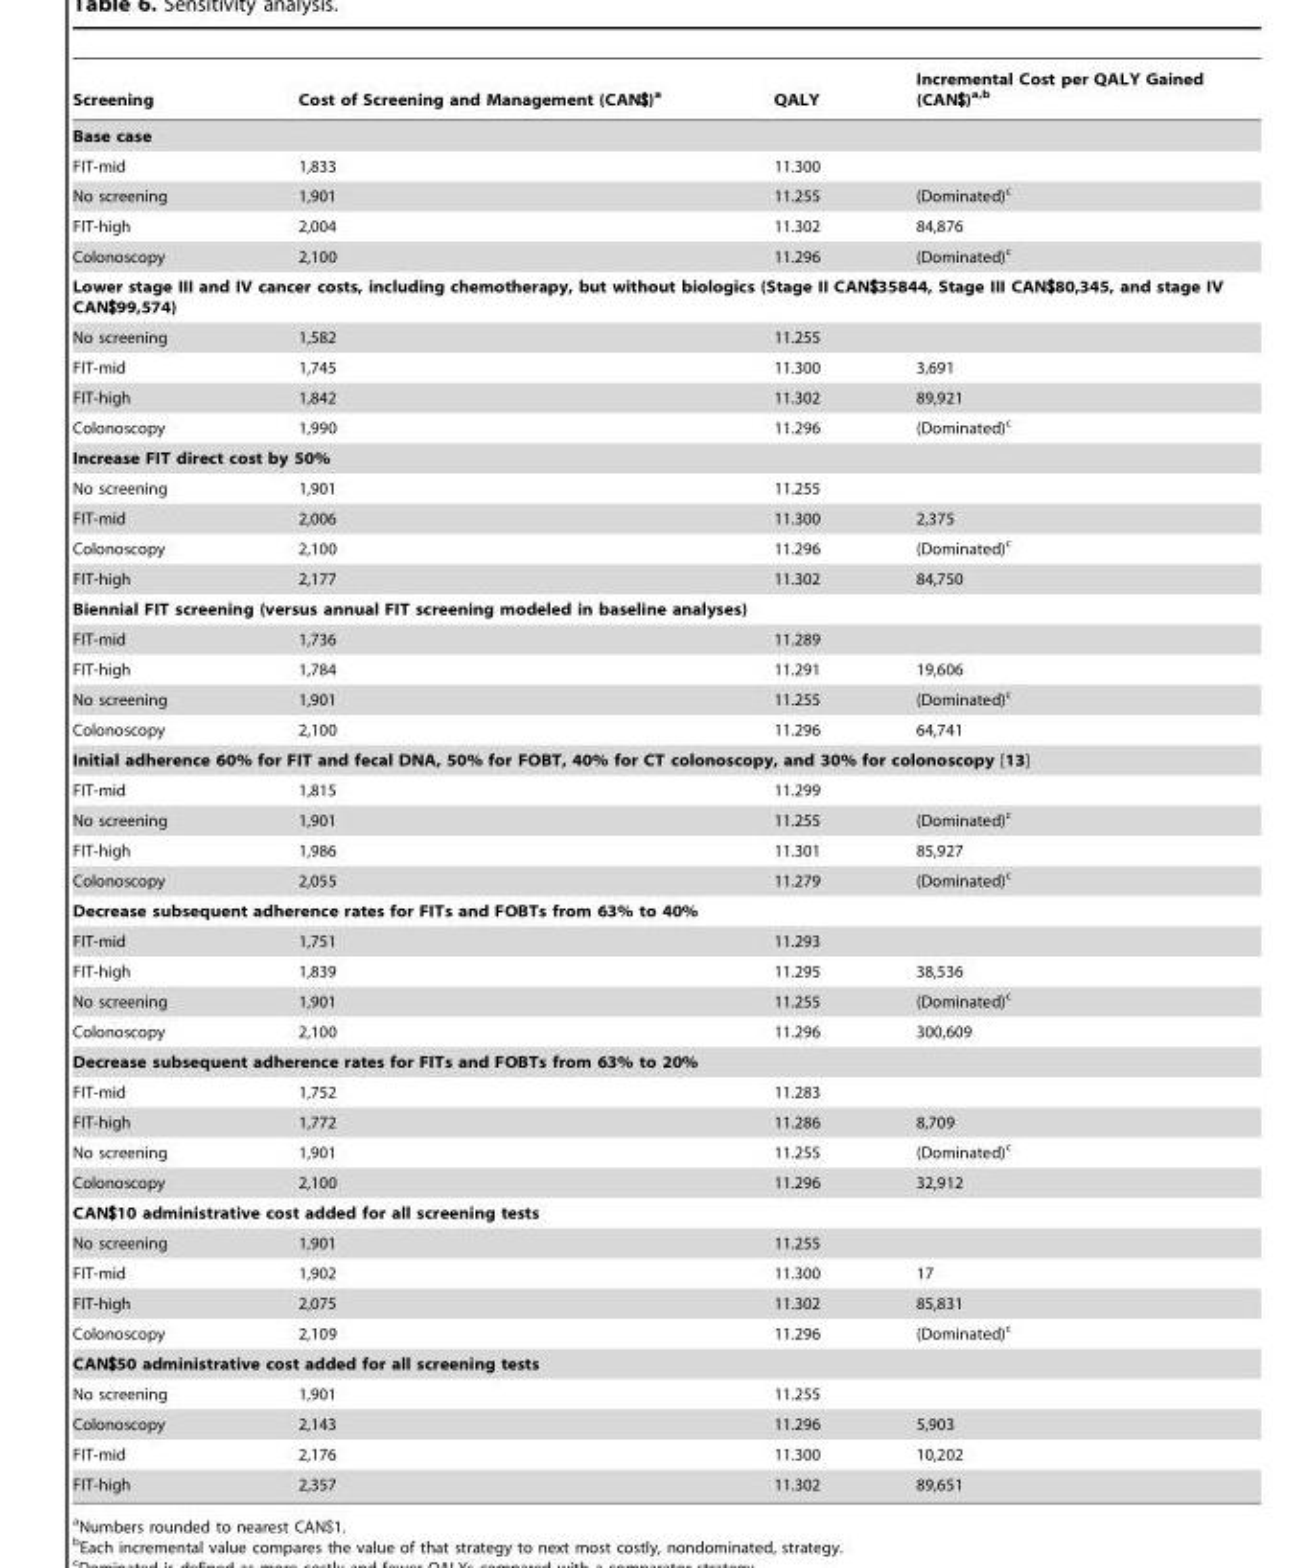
<table><thead><tr><td>Screening</td><td>Cost of Screening and Management (CAN$)<sup>a</sup></td><td>QALY</td><td>Incremental Cost per QALY Gained (CAN$)<sup>a,</sup>b</td></tr></thead><tbody><tr><td colspan="4">Base case</td></tr><tr><td>FIT-mid</td><td>1,833</td><td>11.300</td><td></td></tr><tr><td>No screening</td><td>1,901</td><td>11.255</td><td>(Dominated)<sup>c</sup></td></tr><tr><td>FIT-high</td><td>2,004</td><td>11.302</td><td>84,876</td></tr><tr><td>Colonoscopy</td><td>2,100</td><td>11.296</td><td>(Dominated)<sup>c</sup></td></tr><tr><td colspan="4">Lower stage III and IV cancer costs, including chemotherapy, but without biologics (Stage II CAN$35844, Stage III CAN$80,345, and stage IV CAN$99,574)</td></tr><tr><td>No screening</td><td>1,582</td><td>11.255</td><td></td></tr><tr><td>FIT-mid</td><td>1,745</td><td>11.300</td><td>3,691</td></tr><tr><td>FIT-high</td><td>1,842</td><td>11.302</td><td>89,921</td></tr><tr><td>Colonoscopy</td><td>1,990</td><td>11.296</td><td>(Dominated)<sup>c</sup></td></tr><tr><td colspan="4">Increase FIT direct cost by 50%</td></tr><tr><td>No screening</td><td>1,901</td><td>11.255</td><td></td></tr><tr><td>FIT-mid</td><td>2,006</td><td>11.300</td><td>2,375</td></tr><tr><td>Colonoscopy</td><td>2,100</td><td>11.296</td><td>(Dominated)<sup>c</sup></td></tr><tr><td>FIT-high</td><td>2,177</td><td>11.302</td><td>84,750</td></tr><tr><td colspan="4">Biennial FIT screening (versus annual FIT screening modeled in baseline analyses)</td></tr><tr><td>FIT-mid</td><td>1,736</td><td>11.289</td><td></td></tr><tr><td>FIT-high</td><td>1,784</td><td>11.291</td><td>19,606</td></tr><tr><td>No screening</td><td>1,901</td><td>11.255</td><td>(Dominated)<sup>c</sup></td></tr><tr><td>Colonoscopy</td><td>2,100</td><td>11.296</td><td>64,741</td></tr><tr><td colspan="4">Initial adherence 60% for FIT and fecal DNA, 50% for FOBT, 40% for CT colonoscopy, and 30% for colonoscopy [13]</td></tr><tr><td>FIT-mid</td><td>1,815</td><td>11.299</td><td></td></tr><tr><td>No screening</td><td>1,901</td><td>11.255</td><td>(Dominated)<sup>c</sup></td></tr><tr><td>FIT-high</td><td>1,986</td><td>11.301</td><td>85,927</td></tr><tr><td>Colonoscopy</td><td>2,055</td><td>11.279</td><td>(Dominated)<sup>c</sup></td></tr><tr><td colspan="4">Decrease subsequent adherence rates for FITs and FOBTs from 63% to 40%</td></tr><tr><td>FIT-mid</td><td>1,751</td><td>11.293</td><td></td></tr><tr><td>FIT-high</td><td>1,839</td><td>11.295</td><td>38,536</td></tr><tr><td>No screening</td><td>1,901</td><td>11.255</td><td>(Dominated)<sup>c</sup></td></tr><tr><td>Colonoscopy</td><td>2,100</td><td>11.296</td><td>300,609</td></tr><tr><td colspan="4">Decrease subsequent adherence rates for FITs and FOBTs from 63% to 20%</td></tr><tr><td>FIT-mid</td><td>1,752</td><td>11.283</td><td></td></tr><tr><td>FIT-high</td><td>1,772</td><td>11.286</td><td>8,709</td></tr><tr><td>No screening</td><td>1,901</td><td>11.255</td><td>(Dominated)<sup>c</sup></td></tr><tr><td>Colonoscopy</td><td>2,100</td><td>11.296</td><td>32,912</td></tr><tr><td colspan="4">CAN$10 administrative cost added for all screening tests</td></tr><tr><td>No screening</td><td>1,901</td><td>11.255</td><td></td></tr><tr><td>FIT-mid</td><td>1,902</td><td>11.300</td><td>17</td></tr><tr><td>FIT-high</td><td>2,075</td><td>11.302</td><td>85,831</td></tr><tr><td>Colonoscopy</td><td>2,109</td><td>11.296</td><td>(Dominated)<sup>c</sup></td></tr><tr><td colspan="4">CAN$50 administrative cost added for all screening tests</td></tr><tr><td>No screening</td><td>1,901</td><td>11.255</td><td></td></tr><tr><td>Colonoscopy</td><td>2,143</td><td>11.296</td><td>5,903</td></tr><tr><td>FIT-mid</td><td>2,176</td><td>11.300</td><td>10,202</td></tr><tr><td>FIT-high</td><td>2,357</td><td>11.302</td><td>89,651</td></tr></tbody></table>